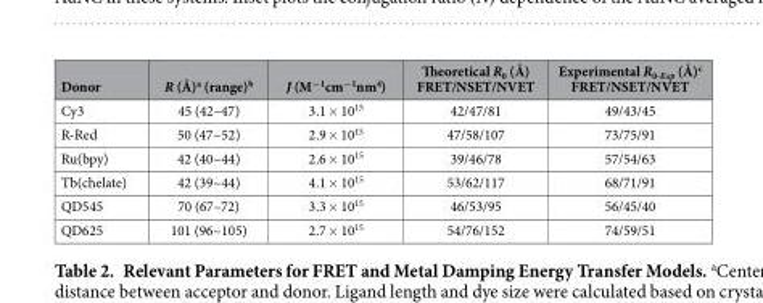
<table><thead><tr><td>Donor</td><td>R (Å)<sup>a</sup> (range)<sup>b</sup></td><td>J (M<sup>−1</sup>cm<sup>−1</sup>nm<sup>4</sup>)</td><td>Theoretical R<sub>0</sub> (Å) FRET/NSET/NVET</td><td>Experimental R<sub>0-Exp</sub> (Å)<sup>c</sup> FRET/NSET/NVET</td></tr></thead><tbody><tr><td>Cy3</td><td>45 (42–47)</td><td>3.1 × 10<sup>15</sup></td><td>42/47/81</td><td>49/43/45</td></tr><tr><td>R-Red</td><td>50 (47~52)</td><td>2.9 × 10<sup>15</sup></td><td>47/58/107</td><td>73/75/91</td></tr><tr><td>Ru(bpy)</td><td>42 (40~44)</td><td>2.6 × 10<sup>15</sup></td><td>39/46/78</td><td>57/54/63</td></tr><tr><td>Tb(chelate)</td><td>42 (39~44)</td><td>4.1 × 10<sup>15</sup></td><td>53/62/117</td><td>68/71/91</td></tr><tr><td>QD545</td><td>70 (67–72)</td><td>3.3 × 10<sup>15</sup></td><td>46/53/95</td><td>56/45/40</td></tr><tr><td>QD625</td><td>101 (96~105)</td><td>2.7 × 10<sup>15</sup></td><td>54/76/152</td><td>74/59/51</td></tr></tbody></table>